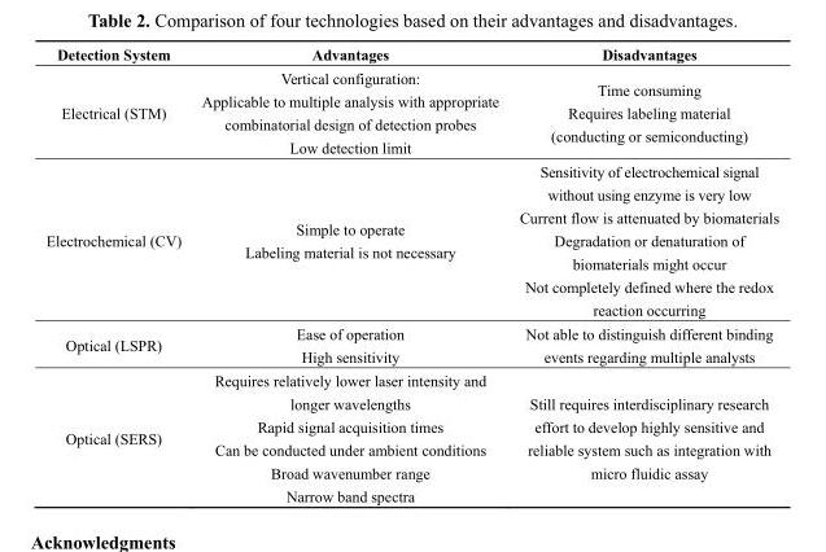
<table><thead><tr><td>Detection System</td><td>Advantages</td><td>Disadvantages</td></tr></thead><tbody><tr><td>Electrical (STM)</td><td>Vertical configuration: Applicable to multiple analysis with appropriate combinatorial design of detection probes Low detection limit</td><td>Time consuming Requires labeling material (conducting or semiconducting)</td></tr><tr><td>Electrochemical (CV)</td><td>Simple to operate Labeling material is not necessary</td><td>Sensitivity of electrochemical signal without using enzyme is very low Current flow is attenuated by biomaterials Degradation or denaturation of biomaterials might occur Not completely defined where the redox reaction occurring</td></tr><tr><td>Optical (LSPR)</td><td>Ease of operation High sensitivity</td><td>Not able to distinguish different binding events regarding multiple analysts</td></tr><tr><td>Optical (SERS)</td><td>Requires relatively lower laser intensity and longer wavelengths Rapid signal acquisition times Can be conducted under ambient conditions Broad wavenumber range Narrow band spectra</td><td>Still requires interdisciplinary research effort to develop highly sensitive and reliable system such as integration with micro fluidic assay</td></tr></tbody></table>